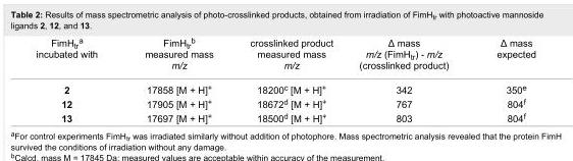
<table><tbody><tr><td>FimH<sub>tr</sub><sup>a</sup> incubated with</td><td>FimH<sub>tr</sub><sup>b</sup> measured mass m/z</td><td>crosslinked product measured mass m/z</td><td>Δ mass m/z (FimH<sub>tr</sub>) - m/z (crosslinked product)</td><td>Δ mass expected</td></tr><tr><td>2</td><td>17858 [M + H]<sup>+</sup></td><td>18200<sup>c</sup> [M + H]<sup>+</sup></td><td>342</td><td>350<sup>e</sup></td></tr><tr><td>12</td><td>17905 [M + H]<sup>+</sup></td><td>18672<sup>d</sup> [M + H]<sup>+</sup></td><td>767</td><td>804<sup>f</sup></td></tr><tr><td>13</td><td>17697 [M + H]<sup>+</sup></td><td>18500<sup>d</sup> [M + H]<sup>+</sup></td><td>803</td><td>804<sup>f</sup></td></tr></tbody></table>